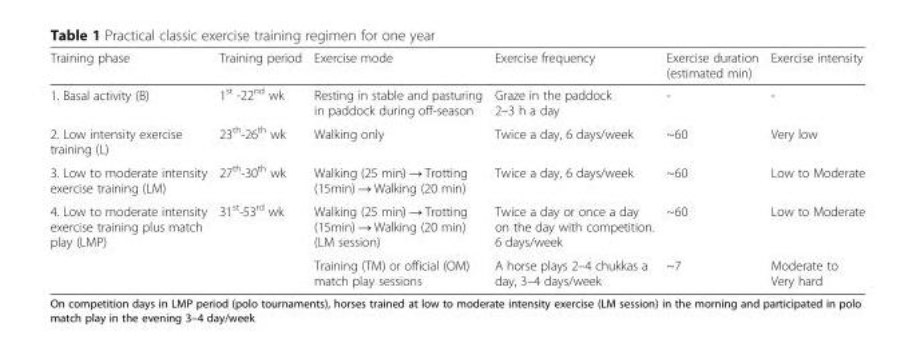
<table><thead><tr><td>Training phase</td><td>Training period</td><td>Exercise mode</td><td>Exercise frequency</td><td>Exercise duration (estimated min)</td><td>Exercise intensity</td></tr></thead><tbody><tr><td>1. Basal activity (B)</td><td>1<sup>st</sup> -22<sup>nd</sup> wk</td><td>Resting in stable and pasturing in paddock during off-season</td><td>Graze in the paddock 2–3 h a day</td><td>-</td><td>-</td></tr><tr><td>2. Low intensity exercise training (L)</td><td>23<sup>th</sup>-26<sup>th</sup> wk</td><td>Walking only</td><td>Twice a day, 6 days/week</td><td>~60</td><td>Very low</td></tr><tr><td>3. Low to moderate intensity exercise training (LM)</td><td>27<sup>th</sup>-30<sup>th</sup> wk</td><td>Walking (25 min) → Trotting (15min) → Walking (20 min)</td><td>Twice a day, 6 days/week</td><td>~60</td><td>Low to Moderate</td></tr><tr><td rowspan="2">4. Low to moderate intensity exercise training plus match play (LMP)</td><td rowspan="2">31<sup>st</sup>-53<sup>rd</sup> wk</td><td>Walking (25 min) → Trotting (15min) → Walking (20 min) (LM session)</td><td>Twice a day or once a day on the day with competition. 6 days/week</td><td>~60</td><td>Low to Moderate</td></tr><tr><td>Training (TM) or official (OM) match play sessions</td><td>A horse plays 2–4 chukkas a day, 3–4 days/week</td><td>~7</td><td>Moderate to Very hard</td></tr></tbody></table>